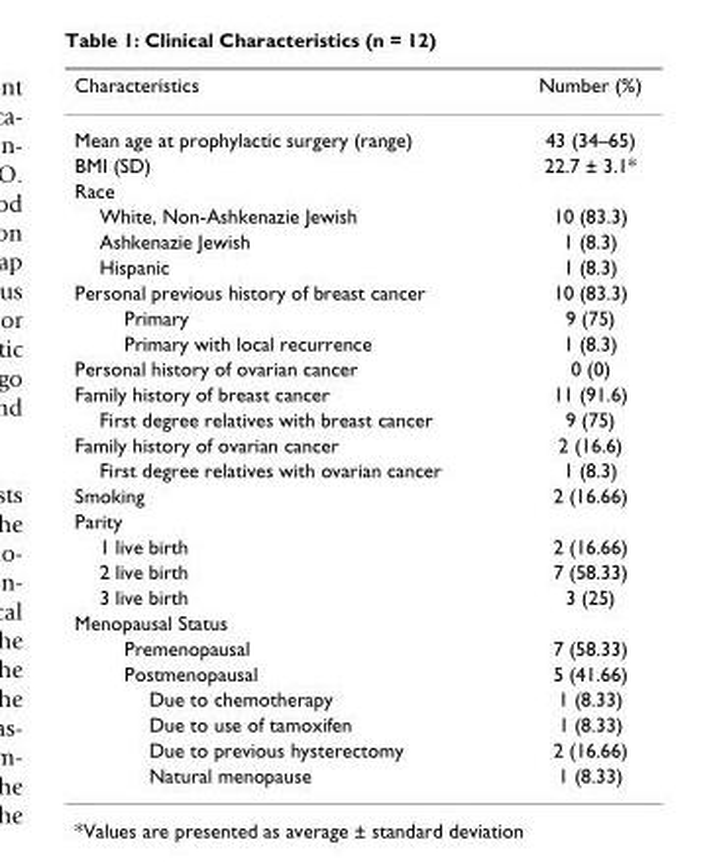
<table><thead><tr><td>Characteristics</td><td>Number (%)</td></tr></thead><tbody><tr><td>Mean age at prophylactic surgery (range)</td><td>43 (34–65)</td></tr><tr><td>BMI (SD)</td><td>22.7 ± 3.1*</td></tr><tr><td colspan="2">Race</td></tr><tr><td>White, Non-Ashkenazie Jewish</td><td>10 (83.3)</td></tr><tr><td>Ashkenazie Jewish</td><td>1 (8.3)</td></tr><tr><td>Hispanic</td><td>1 (8.3)</td></tr><tr><td>Personal previous history of breast cancer</td><td>10 (83.3)</td></tr><tr><td>Primary</td><td>9 (75)</td></tr><tr><td>Primary with local recurrence</td><td>1 (8.3)</td></tr><tr><td>Personal history of ovarian cancer</td><td>0 (0)</td></tr><tr><td>Family history of breast cancer</td><td>11 (91.6)</td></tr><tr><td>First degree relatives with breast cancer</td><td>9 (75)</td></tr><tr><td>Family history of ovarian cancer</td><td>2 (16.6)</td></tr><tr><td>First degree relatives with ovarian cancer</td><td>1 (8.3)</td></tr><tr><td>Smoking</td><td>2 (16.66)</td></tr><tr><td colspan="2">Parity</td></tr><tr><td>1 live birth</td><td>2 (16.66)</td></tr><tr><td>2 live birth</td><td>7 (58.33)</td></tr><tr><td>3 live birth</td><td>3 (25)</td></tr><tr><td colspan="2">Menopausal Status</td></tr><tr><td>Premenopausal</td><td>7 (58.33)</td></tr><tr><td>Postmenopausal</td><td>5 (41.66)</td></tr><tr><td>Due to chemotherapy</td><td>1 (8.33)</td></tr><tr><td>Due to use of tamoxifen</td><td>1 (8.33)</td></tr><tr><td>Due to previous hysterectomy</td><td>2 (16.66)</td></tr><tr><td>Natural menopause</td><td>1 (8.33)</td></tr></tbody></table>